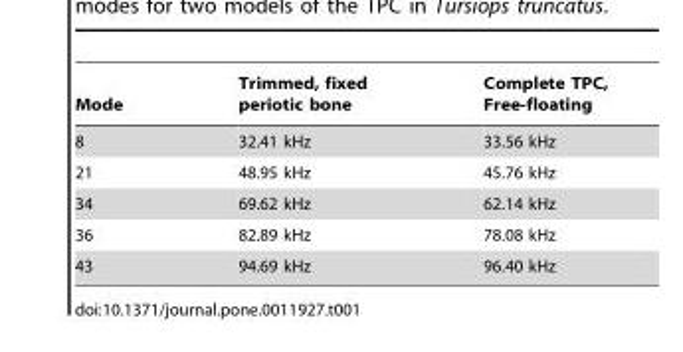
<table><thead><tr><td>Mode</td><td>Trimmed, fixed periotic bone</td><td>Complete TPC, Free-floating</td></tr></thead><tbody><tr><td>8</td><td>32.41 kHz</td><td>33.56 kHz</td></tr><tr><td>21</td><td>48.95 kHz</td><td>45.76 kHz</td></tr><tr><td>34</td><td>69.62 kHz</td><td>62.14 kHz</td></tr><tr><td>36</td><td>82.89 kHz</td><td>78.08 kHz</td></tr><tr><td>43</td><td>94.69 kHz</td><td>96.40 kHz</td></tr></tbody></table>